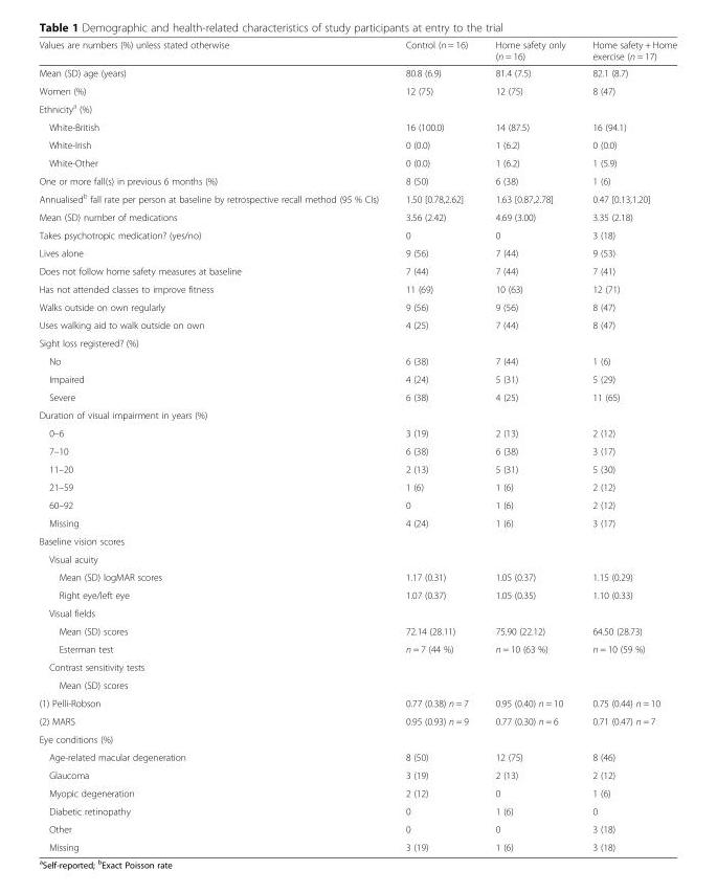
<table><thead><tr><td>Values are numbers (%) unless stated otherwise</td><td>Control (n = 16)</td><td>Home safety only (n = 16)</td><td>Home safety + Home exercise (n = 17)</td></tr></thead><tbody><tr><td>Mean (SD) age (years)</td><td>80.8 (6.9)</td><td>81.4 (7.5)</td><td>82.1 (8.7)</td></tr><tr><td>Women (%)</td><td>12 (75)</td><td>12 (75)</td><td>8 (47)</td></tr><tr><td colspan="4">Ethnicity<sup>a</sup> (%)</td></tr><tr><td>White-British</td><td>16 (100.0)</td><td>14 (87.5)</td><td>16 (94.1)</td></tr><tr><td>White-Irish</td><td>0 (0.0)</td><td>1 (6.2)</td><td>0 (0.0)</td></tr><tr><td>White-Other</td><td>0 (0.0)</td><td>1 (6.2)</td><td>1 (5.9)</td></tr><tr><td>One or more fall(s) in previous 6 months (%)</td><td>8 (50)</td><td>6 (38)</td><td>1 (6)</td></tr><tr><td>Annualised<sup>b</sup> fall rate per person at baseline by retrospective recall method (95 % CIs)</td><td>1.50 [0.78,2.62]</td><td>1.63 [0.87,2.78]</td><td>0.47 [0.13,1.20]</td></tr><tr><td>Mean (SD) number of medications</td><td>3.56 (2.42)</td><td>4.69 (3.00)</td><td>3.35 (2.18)</td></tr><tr><td>Takes psychotropic medication? (yes/no)</td><td>0</td><td>0</td><td>3 (18)</td></tr><tr><td>Lives alone</td><td>9 (56)</td><td>7 (44)</td><td>9 (53)</td></tr><tr><td>Does not follow home safety measures at baseline</td><td>7 (44)</td><td>7 (44)</td><td>7 (41)</td></tr><tr><td>Has not attended classes to improve fitness</td><td>11 (69)</td><td>10 (63)</td><td>12 (71)</td></tr><tr><td>Walks outside on own regularly</td><td>9 (56)</td><td>9 (56)</td><td>8 (47)</td></tr><tr><td>Uses walking aid to walk outside on own</td><td>4 (25)</td><td>7 (44)</td><td>8 (47)</td></tr><tr><td colspan="4">Sight loss registered? (%)</td></tr><tr><td>No</td><td>6 (38)</td><td>7 (44)</td><td>1 (6)</td></tr><tr><td>Impaired</td><td>4 (24)</td><td>5 (31)</td><td>5 (29)</td></tr><tr><td>Severe</td><td>6 (38)</td><td>4 (25)</td><td>11 (65)</td></tr><tr><td colspan="4">Duration of visual impairment in years (%)</td></tr><tr><td>0–6</td><td>3 (19)</td><td>2 (13)</td><td>2 (12)</td></tr><tr><td>7–10</td><td>6 (38)</td><td>6 (38)</td><td>3 (17)</td></tr><tr><td>11–20</td><td>2 (13)</td><td>5 (31)</td><td>5 (30)</td></tr><tr><td>21–59</td><td>1 (6)</td><td>1 (6)</td><td>2 (12)</td></tr><tr><td>60–92</td><td>0</td><td>1 (6)</td><td>2 (12)</td></tr><tr><td>Missing</td><td>4 (24)</td><td>1 (6)</td><td>3 (17)</td></tr><tr><td colspan="4">Baseline vision scores</td></tr><tr><td colspan="4">Visual acuity</td></tr><tr><td>Mean (SD) logMAR scores</td><td>1.17 (0.31)</td><td>1.05 (0.37)</td><td>1.15 (0.29)</td></tr><tr><td>Right eye/left eye</td><td>1.07 (0.37)</td><td>1.05 (0.35)</td><td>1.10 (0.33)</td></tr><tr><td colspan="4">Visual fields</td></tr><tr><td>Mean (SD) scores</td><td>72.14 (28.11)</td><td>75.90 (22.12)</td><td>64.50 (28.73)</td></tr><tr><td>Esterman test</td><td>n = 7 (44 %)</td><td>n = 10 (63 %)</td><td>n = 10 (59 %)</td></tr><tr><td colspan="4">Contrast sensitivity tests</td></tr><tr><td colspan="4">Mean (SD) scores</td></tr><tr><td>(1) Pelli-Robson</td><td>0.77 (0.38) n = 7</td><td>0.95 (0.40) n = 10</td><td>0.75 (0.44) n = 10</td></tr><tr><td>(2) MARS</td><td>0.95 (0.93) n = 9</td><td>0.77 (0.30) n = 6</td><td>0.71 (0.47) n = 7</td></tr><tr><td colspan="4">Eye conditions (%)</td></tr><tr><td>Age-related macular degeneration</td><td>8 (50)</td><td>12 (75)</td><td>8 (46)</td></tr><tr><td>Glaucoma</td><td>3 (19)</td><td>2 (13)</td><td>2 (12)</td></tr><tr><td>Myopic degeneration</td><td>2 (12)</td><td>0</td><td>1 (6)</td></tr><tr><td>Diabetic retinopathy</td><td>0</td><td>1 (6)</td><td>0</td></tr><tr><td>Other</td><td>0</td><td>0</td><td>3 (18)</td></tr><tr><td>Missing</td><td>3 (19)</td><td>1 (6)</td><td>3 (18)</td></tr></tbody></table>